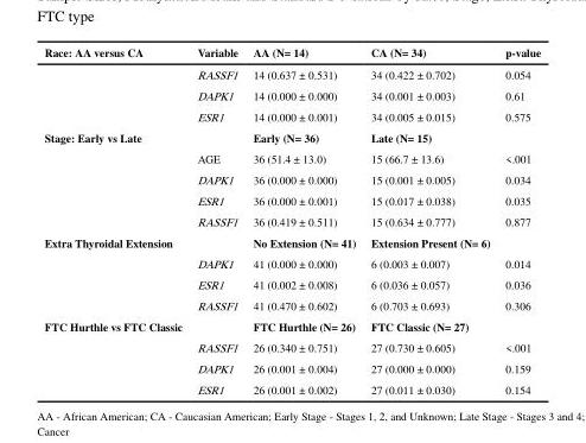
<table><thead><tr><td>Race: AA versus CA</td><td>Variable</td><td>AA (N= 14)</td><td>CA (N= 34)</td><td>p-value</td></tr></thead><tbody><tr><td></td><td>RASSF1</td><td>14 (0.637 ± 0.531)</td><td>34 (0.422 ± 0.702)</td><td>0.054</td></tr><tr><td></td><td>DAPK1</td><td>14 (0.000 ± 0.000)</td><td>34 (0.001 ± 0.003)</td><td>0.61</td></tr><tr><td></td><td>ESR1</td><td>14 (0.000 ± 0.001)</td><td>34 (0.005 ± 0.015)</td><td>0.575</td></tr><tr><td rowspan="5">Stage: Early vs Late</td><td></td><td>Early (N= 36)</td><td>Late (N= 15)</td><td></td></tr><tr><td>AGE</td><td>36 (51.4 ± 13.0)</td><td>15 (66.7 ± 13.6)</td><td>&lt;.001</td></tr><tr><td>DAPK1</td><td>36 (0.000 ± 0.000)</td><td>15 (0.001 ± 0.005)</td><td>0.034</td></tr><tr><td>ESR1</td><td>36 (0.000 ± 0.001)</td><td>15 (0.017 ± 0.038)</td><td>0.035</td></tr><tr><td>RASSF1</td><td>36 (0.419 ± 0.511)</td><td>15 (0.634 ± 0.777)</td><td>0.877</td></tr><tr><td rowspan="4">Extra Thyroidal Extension</td><td></td><td>No Extension (N= 41)</td><td>Extension Present (N= 6)</td><td></td></tr><tr><td>DAPK1</td><td>41 (0.000 ± 0.000)</td><td>6 (0.003 ± 0.007)</td><td>0.014</td></tr><tr><td>ESR1</td><td>41 (0.002 ± 0.008)</td><td>6 (0.036 ± 0.057)</td><td>0.036</td></tr><tr><td>RASSF1</td><td>41 (0.470 ± 0.602)</td><td>6 (0.703 ± 0.693)</td><td>0.306</td></tr><tr><td rowspan="4">FTC Hurthle vs FTC Classic</td><td></td><td>FTC Hurthle (N= 26)</td><td>FTC Classic (N= 27)</td><td></td></tr><tr><td>RASSF1</td><td>26 (0.340 ± 0.751)</td><td>27 (0.730 ± 0.605)</td><td>&lt;.001</td></tr><tr><td>DAPK1</td><td>26 (0.001 ± 0.004)</td><td>27 (0.000 ± 0.000)</td><td>0.159</td></tr><tr><td>ESR1</td><td>26 (0.001 ± 0.002)</td><td>27 (0.011 ± 0.030)</td><td>0.154</td></tr></tbody></table>